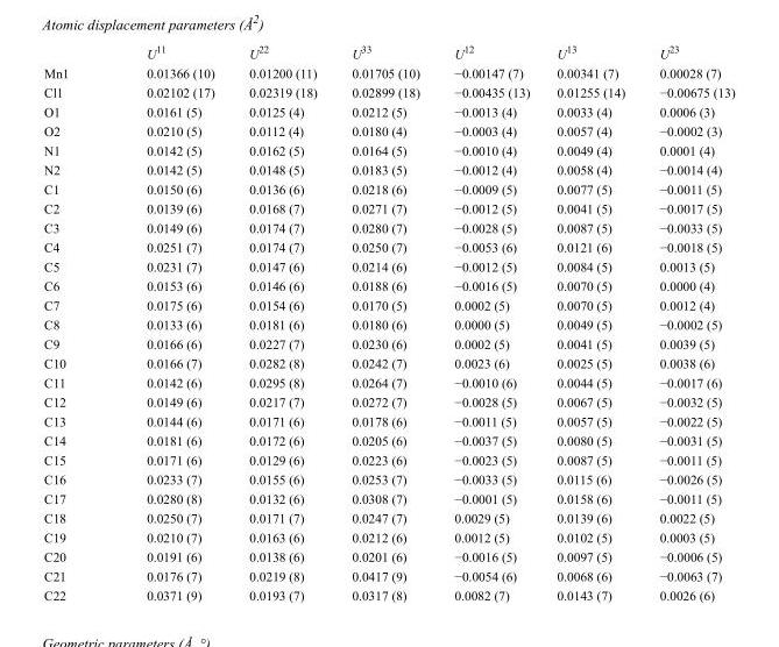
<table><thead><tr><td></td><td>U<sup>11</sup></td><td>U<sup>22</sup></td><td>U<sup>33</sup></td><td>U<sup>12</sup></td><td>U<sup>13</sup></td><td>U<sup>23</sup></td></tr></thead><tbody><tr><td>Mn1</td><td>0.01366 (10)</td><td>0.01200 (11)</td><td>0.01705 (10)</td><td>−0.00147 (7)</td><td>0.00341 (7)</td><td>0.00028 (7)</td></tr><tr><td>Cl1</td><td>0.02102 (17)</td><td>0.02319 (18)</td><td>0.02899 (18)</td><td>−0.00435 (13)</td><td>0.01255 (14)</td><td>−0.00675 (13)</td></tr><tr><td>O1</td><td>0.0161 (5)</td><td>0.0125 (4)</td><td>0.0212 (5)</td><td>−0.0013 (4)</td><td>0.0033 (4)</td><td>0.0006 (3)</td></tr><tr><td>O2</td><td>0.0210 (5)</td><td>0.0112 (4)</td><td>0.0180 (4)</td><td>−0.0003 (4)</td><td>0.0057 (4)</td><td>−0.0002 (3)</td></tr><tr><td>N1</td><td>0.0142 (5)</td><td>0.0162 (5)</td><td>0.0164 (5)</td><td>−0.0010 (4)</td><td>0.0049 (4)</td><td>0.0001 (4)</td></tr><tr><td>N2</td><td>0.0142 (5)</td><td>0.0148 (5)</td><td>0.0183 (5)</td><td>−0.0012 (4)</td><td>0.0058 (4)</td><td>−0.0014 (4)</td></tr><tr><td>C1</td><td>0.0150 (6)</td><td>0.0136 (6)</td><td>0.0218 (6)</td><td>−0.0009 (5)</td><td>0.0077 (5)</td><td>−0.0011 (5)</td></tr><tr><td>C2</td><td>0.0139 (6)</td><td>0.0168 (7)</td><td>0.0271 (7)</td><td>−0.0012 (5)</td><td>0.0041 (5)</td><td>−0.0017 (5)</td></tr><tr><td>C3</td><td>0.0149 (6)</td><td>0.0174 (7)</td><td>0.0280 (7)</td><td>−0.0028 (5)</td><td>0.0087 (5)</td><td>−0.0033 (5)</td></tr><tr><td>C4</td><td>0.0251 (7)</td><td>0.0174 (7)</td><td>0.0250 (7)</td><td>−0.0053 (6)</td><td>0.0121 (6)</td><td>−0.0018 (5)</td></tr><tr><td>C5</td><td>0.0231 (7)</td><td>0.0147 (6)</td><td>0.0214 (6)</td><td>−0.0012 (5)</td><td>0.0084 (5)</td><td>0.0013 (5)</td></tr><tr><td>C6</td><td>0.0153 (6)</td><td>0.0146 (6)</td><td>0.0188 (6)</td><td>−0.0016 (5)</td><td>0.0070 (5)</td><td>0.0000 (4)</td></tr><tr><td>C7</td><td>0.0175 (6)</td><td>0.0154 (6)</td><td>0.0170 (5)</td><td>0.0002 (5)</td><td>0.0070 (5)</td><td>0.0012 (4)</td></tr><tr><td>C8</td><td>0.0133 (6)</td><td>0.0181 (6)</td><td>0.0180 (6)</td><td>0.0000 (5)</td><td>0.0049 (5)</td><td>−0.0002 (5)</td></tr><tr><td>C9</td><td>0.0166 (6)</td><td>0.0227 (7)</td><td>0.0230 (6)</td><td>0.0002 (5)</td><td>0.0041 (5)</td><td>0.0039 (5)</td></tr><tr><td>C10</td><td>0.0166 (7)</td><td>0.0282 (8)</td><td>0.0242 (7)</td><td>0.0023 (6)</td><td>0.0025 (5)</td><td>0.0038 (6)</td></tr><tr><td>C11</td><td>0.0142 (6)</td><td>0.0295 (8)</td><td>0.0264 (7)</td><td>−0.0010 (6)</td><td>0.0044 (5)</td><td>−0.0017 (6)</td></tr><tr><td>C12</td><td>0.0149 (6)</td><td>0.0217 (7)</td><td>0.0272 (7)</td><td>−0.0028 (5)</td><td>0.0067 (5)</td><td>−0.0032 (5)</td></tr><tr><td>C13</td><td>0.0144 (6)</td><td>0.0171 (6)</td><td>0.0178 (6)</td><td>−0.0011 (5)</td><td>0.0057 (5)</td><td>−0.0022 (5)</td></tr><tr><td>C14</td><td>0.0181 (6)</td><td>0.0172 (6)</td><td>0.0205 (6)</td><td>−0.0037 (5)</td><td>0.0080 (5)</td><td>−0.0031 (5)</td></tr><tr><td>C15</td><td>0.0171 (6)</td><td>0.0129 (6)</td><td>0.0223 (6)</td><td>−0.0023 (5)</td><td>0.0087 (5)</td><td>−0.0011 (5)</td></tr><tr><td>C16</td><td>0.0233 (7)</td><td>0.0155 (6)</td><td>0.0253 (7)</td><td>−0.0033 (5)</td><td>0.0115 (6)</td><td>−0.0026 (5)</td></tr><tr><td>C17</td><td>0.0280 (8)</td><td>0.0132 (6)</td><td>0.0308 (7)</td><td>−0.0001 (5)</td><td>0.0158 (6)</td><td>−0.0011 (5)</td></tr><tr><td>C18</td><td>0.0250 (7)</td><td>0.0171 (7)</td><td>0.0247 (7)</td><td>0.0029 (5)</td><td>0.0139 (6)</td><td>0.0022 (5)</td></tr><tr><td>C19</td><td>0.0210 (7)</td><td>0.0163 (6)</td><td>0.0212 (6)</td><td>0.0012 (5)</td><td>0.0102 (5)</td><td>0.0003 (5)</td></tr><tr><td>C20</td><td>0.0191 (6)</td><td>0.0138 (6)</td><td>0.0201 (6)</td><td>−0.0016 (5)</td><td>0.0097 (5)</td><td>−0.0006 (5)</td></tr><tr><td>C21</td><td>0.0176 (7)</td><td>0.0219 (8)</td><td>0.0417 (9)</td><td>−0.0054 (6)</td><td>0.0068 (6)</td><td>−0.0063 (7)</td></tr><tr><td>C22</td><td>0.0371 (9)</td><td>0.0193 (7)</td><td>0.0317 (8)</td><td>0.0082 (7)</td><td>0.0143 (7)</td><td>0.0026 (6)</td></tr></tbody></table>